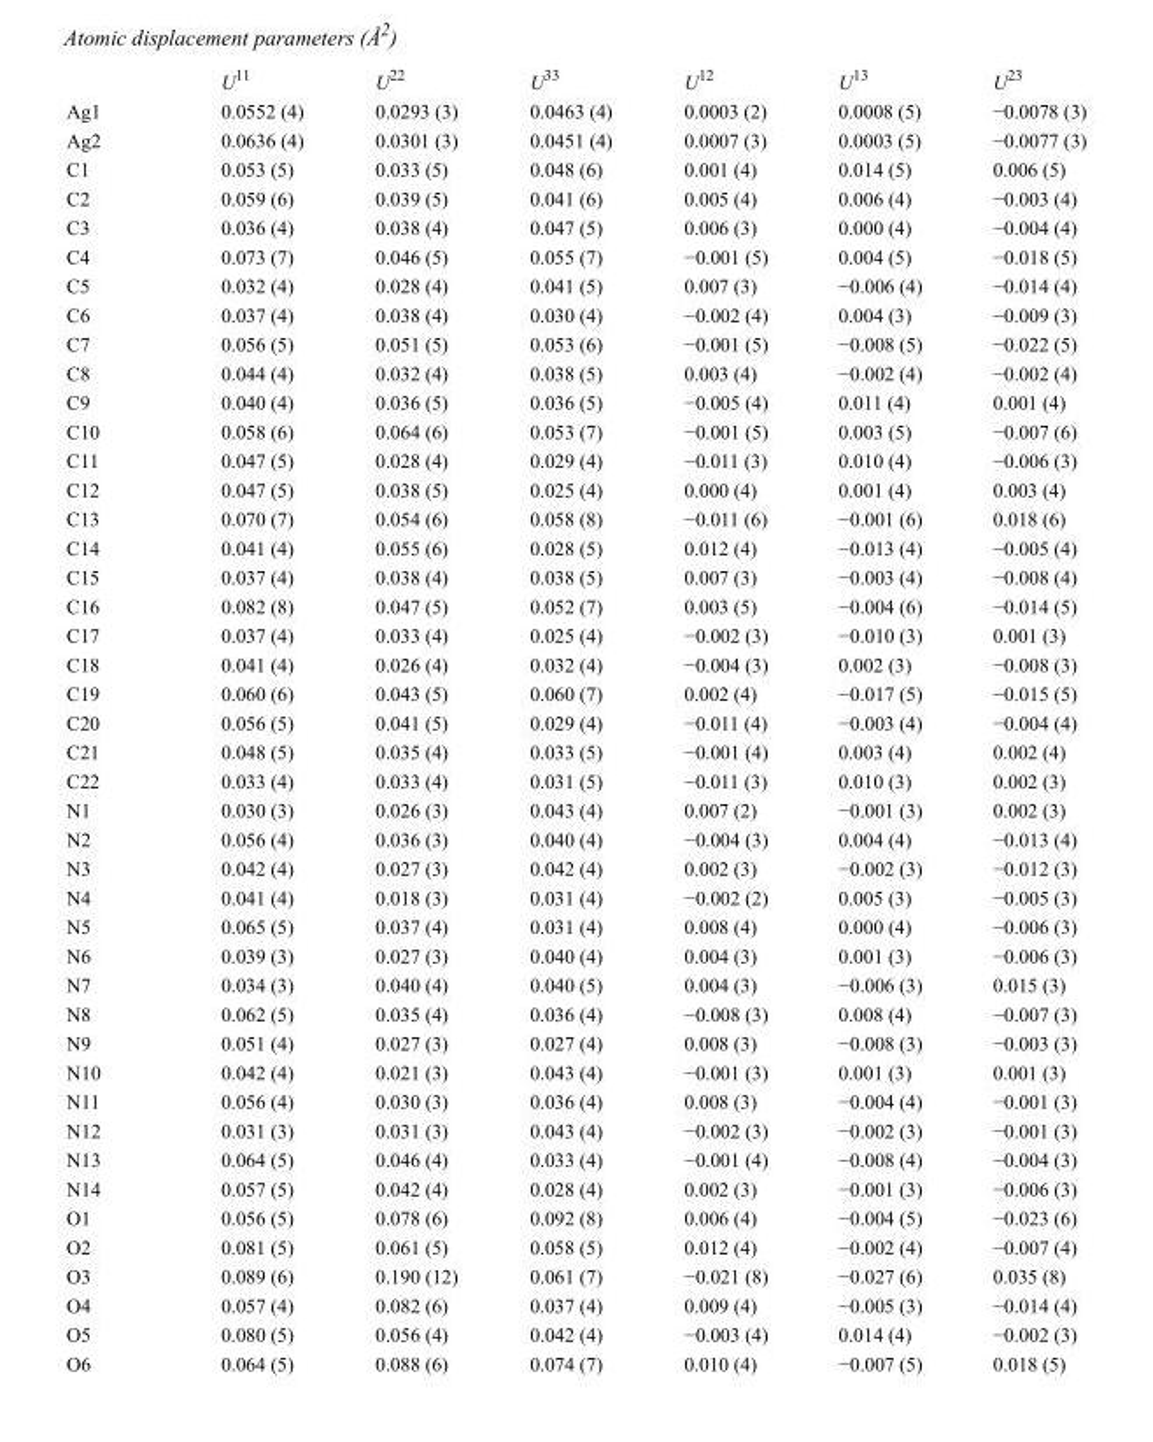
<table><thead><tr><td></td><td>U<sup>11</sup></td><td>U<sup>22</sup></td><td>U<sup>33</sup></td><td>U<sup>12</sup></td><td>U<sup>13</sup></td><td>U<sup>23</sup></td></tr></thead><tbody><tr><td>Ag1</td><td>0.0552 (4)</td><td>0.0293 (3)</td><td>0.0463 (4)</td><td>0.0003 (2)</td><td>0.0008 (5)</td><td>−0.0078 (3)</td></tr><tr><td>Ag2</td><td>0.0636 (4)</td><td>0.0301 (3)</td><td>0.0451 (4)</td><td>0.0007 (3)</td><td>0.0003 (5)</td><td>−0.0077 (3)</td></tr><tr><td>C1</td><td>0.053 (5)</td><td>0.033 (5)</td><td>0.048 (6)</td><td>0.001 (4)</td><td>0.014 (5)</td><td>0.006 (5)</td></tr><tr><td>C2</td><td>0.059 (6)</td><td>0.039 (5)</td><td>0.041 (6)</td><td>0.005 (4)</td><td>0.006 (4)</td><td>−0.003 (4)</td></tr><tr><td>C3</td><td>0.036 (4)</td><td>0.038 (4)</td><td>0.047 (5)</td><td>0.006 (3)</td><td>0.000 (4)</td><td>−0.004 (4)</td></tr><tr><td>C4</td><td>0.073 (7)</td><td>0.046 (5)</td><td>0.055 (7)</td><td>−0.001 (5)</td><td>0.004 (5)</td><td>−0.018 (5)</td></tr><tr><td>C5</td><td>0.032 (4)</td><td>0.028 (4)</td><td>0.041 (5)</td><td>0.007 (3)</td><td>−0.006 (4)</td><td>−0.014 (4)</td></tr><tr><td>C6</td><td>0.037 (4)</td><td>0.038 (4)</td><td>0.030 (4)</td><td>−0.002 (4)</td><td>0.004 (3)</td><td>−0.009 (3)</td></tr><tr><td>C7</td><td>0.056 (5)</td><td>0.051 (5)</td><td>0.053 (6)</td><td>−0.001 (5)</td><td>−0.008 (5)</td><td>−0.022 (5)</td></tr><tr><td>C8</td><td>0.044 (4)</td><td>0.032 (4)</td><td>0.038 (5)</td><td>0.003 (4)</td><td>−0.002 (4)</td><td>−0.002 (4)</td></tr><tr><td>C9</td><td>0.040 (4)</td><td>0.036 (5)</td><td>0.036 (5)</td><td>−0.005 (4)</td><td>0.011 (4)</td><td>0.001 (4)</td></tr><tr><td>C10</td><td>0.058 (6)</td><td>0.064 (6)</td><td>0.053 (7)</td><td>−0.001 (5)</td><td>0.003 (5)</td><td>−0.007 (6)</td></tr><tr><td>C11</td><td>0.047 (5)</td><td>0.028 (4)</td><td>0.029 (4)</td><td>−0.011 (3)</td><td>0.010 (4)</td><td>−0.006 (3)</td></tr><tr><td>C12</td><td>0.047 (5)</td><td>0.038 (5)</td><td>0.025 (4)</td><td>0.000 (4)</td><td>0.001 (4)</td><td>0.003 (4)</td></tr><tr><td>C13</td><td>0.070 (7)</td><td>0.054 (6)</td><td>0.058 (8)</td><td>−0.011 (6)</td><td>−0.001 (6)</td><td>0.018 (6)</td></tr><tr><td>C14</td><td>0.041 (4)</td><td>0.055 (6)</td><td>0.028 (5)</td><td>0.012 (4)</td><td>−0.013 (4)</td><td>−0.005 (4)</td></tr><tr><td>C15</td><td>0.037 (4)</td><td>0.038 (4)</td><td>0.038 (5)</td><td>0.007 (3)</td><td>−0.003 (4)</td><td>−0.008 (4)</td></tr><tr><td>C16</td><td>0.082 (8)</td><td>0.047 (5)</td><td>0.052 (7)</td><td>0.003 (5)</td><td>−0.004 (6)</td><td>−0.014 (5)</td></tr><tr><td>C17</td><td>0.037 (4)</td><td>0.033 (4)</td><td>0.025 (4)</td><td>−0.002 (3)</td><td>−0.010 (3)</td><td>0.001 (3)</td></tr><tr><td>C18</td><td>0.041 (4)</td><td>0.026 (4)</td><td>0.032 (4)</td><td>−0.004 (3)</td><td>0.002 (3)</td><td>−0.008 (3)</td></tr><tr><td>C19</td><td>0.060 (6)</td><td>0.043 (5)</td><td>0.060 (7)</td><td>0.002 (4)</td><td>−0.017 (5)</td><td>−0.015 (5)</td></tr><tr><td>C20</td><td>0.056 (5)</td><td>0.041 (5)</td><td>0.029 (4)</td><td>−0.011 (4)</td><td>−0.003 (4)</td><td>−0.004 (4)</td></tr><tr><td>C21</td><td>0.048 (5)</td><td>0.035 (4)</td><td>0.033 (5)</td><td>−0.001 (4)</td><td>0.003 (4)</td><td>0.002 (4)</td></tr><tr><td>C22</td><td>0.033 (4)</td><td>0.033 (4)</td><td>0.031 (5)</td><td>−0.011 (3)</td><td>0.010 (3)</td><td>0.002 (3)</td></tr><tr><td>N1</td><td>0.030 (3)</td><td>0.026 (3)</td><td>0.043 (4)</td><td>0.007 (2)</td><td>−0.001 (3)</td><td>0.002 (3)</td></tr><tr><td>N2</td><td>0.056 (4)</td><td>0.036 (3)</td><td>0.040 (4)</td><td>−0.004 (3)</td><td>0.004 (4)</td><td>−0.013 (4)</td></tr><tr><td>N3</td><td>0.042 (4)</td><td>0.027 (3)</td><td>0.042 (4)</td><td>0.002 (3)</td><td>−0.002 (3)</td><td>−0.012 (3)</td></tr><tr><td>N4</td><td>0.041 (4)</td><td>0.018 (3)</td><td>0.031 (4)</td><td>−0.002 (2)</td><td>0.005 (3)</td><td>−0.005 (3)</td></tr><tr><td>N5</td><td>0.065 (5)</td><td>0.037 (4)</td><td>0.031 (4)</td><td>0.008 (4)</td><td>0.000 (4)</td><td>−0.006 (3)</td></tr><tr><td>N6</td><td>0.039 (3)</td><td>0.027 (3)</td><td>0.040 (4)</td><td>0.004 (3)</td><td>0.001 (3)</td><td>−0.006 (3)</td></tr><tr><td>N7</td><td>0.034 (3)</td><td>0.040 (4)</td><td>0.040 (5)</td><td>0.004 (3)</td><td>−0.006 (3)</td><td>0.015 (3)</td></tr><tr><td>N8</td><td>0.062 (5)</td><td>0.035 (4)</td><td>0.036 (4)</td><td>−0.008 (3)</td><td>0.008 (4)</td><td>−0.007 (3)</td></tr><tr><td>N9</td><td>0.051 (4)</td><td>0.027 (3)</td><td>0.027 (4)</td><td>0.008 (3)</td><td>−0.008 (3)</td><td>−0.003 (3)</td></tr><tr><td>N10</td><td>0.042 (4)</td><td>0.021 (3)</td><td>0.043 (4)</td><td>−0.001 (3)</td><td>0.001 (3)</td><td>0.001 (3)</td></tr><tr><td>N11</td><td>0.056 (4)</td><td>0.030 (3)</td><td>0.036 (4)</td><td>0.008 (3)</td><td>−0.004 (4)</td><td>−0.001 (3)</td></tr><tr><td>N12</td><td>0.031 (3)</td><td>0.031 (3)</td><td>0.043 (4)</td><td>−0.002 (3)</td><td>−0.002 (3)</td><td>−0.001 (3)</td></tr><tr><td>N13</td><td>0.064 (5)</td><td>0.046 (4)</td><td>0.033 (4)</td><td>−0.001 (4)</td><td>−0.008 (4)</td><td>−0.004 (3)</td></tr><tr><td>N14</td><td>0.057 (5)</td><td>0.042 (4)</td><td>0.028 (4)</td><td>0.002 (3)</td><td>−0.001 (3)</td><td>−0.006 (3)</td></tr><tr><td>O1</td><td>0.056 (5)</td><td>0.078 (6)</td><td>0.092 (8)</td><td>0.006 (4)</td><td>−0.004 (5)</td><td>−0.023 (6)</td></tr><tr><td>O2</td><td>0.081 (5)</td><td>0.061 (5)</td><td>0.058 (5)</td><td>0.012 (4)</td><td>−0.002 (4)</td><td>−0.007 (4)</td></tr><tr><td>O3</td><td>0.089 (6)</td><td>0.190 (12)</td><td>0.061 (7)</td><td>−0.021 (8)</td><td>−0.027 (6)</td><td>0.035 (8)</td></tr><tr><td>O4</td><td>0.057 (4)</td><td>0.082 (6)</td><td>0.037 (4)</td><td>0.009 (4)</td><td>−0.005 (3)</td><td>−0.014 (4)</td></tr><tr><td>O5</td><td>0.080 (5)</td><td>0.056 (4)</td><td>0.042 (4)</td><td>−0.003 (4)</td><td>0.014 (4)</td><td>−0.002 (3)</td></tr><tr><td>O6</td><td>0.064 (5)</td><td>0.088 (6)</td><td>0.074 (7)</td><td>0.010 (4)</td><td>−0.007 (5)</td><td>0.018 (5)</td></tr></tbody></table>